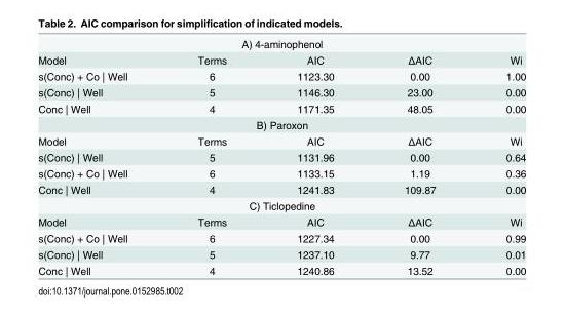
<table><tbody><tr><td colspan="5">A) 4-aminophenol</td></tr><tr><td>Model</td><td>Terms</td><td>AIC</td><td>ΔAIC</td><td>Wi</td></tr><tr><td>s(Conc) + Co | Well</td><td>6</td><td>1123.30</td><td>0.00</td><td>1.00</td></tr><tr><td>s(Conc) | Well</td><td>5</td><td>1146.30</td><td>23.00</td><td>0.00</td></tr><tr><td>Conc | Well</td><td>4</td><td>1171.35</td><td>48.05</td><td>0.00</td></tr><tr><td colspan="5">B) Paroxon</td></tr><tr><td>Model</td><td>Terms</td><td>AIC</td><td>ΔAIC</td><td>Wi</td></tr><tr><td>s(Conc) | Well</td><td>5</td><td>1131.96</td><td>0.00</td><td>0.64</td></tr><tr><td>s(Conc) + Co | Well</td><td>6</td><td>1133.15</td><td>1.19</td><td>0.36</td></tr><tr><td>Conc | Well</td><td>4</td><td>1241.83</td><td>109.87</td><td>0.00</td></tr><tr><td colspan="5">C) Ticlopedine</td></tr><tr><td>Model</td><td>Terms</td><td>AIC</td><td>ΔAIC</td><td>Wi</td></tr><tr><td>s(Conc) + Co | Well</td><td>6</td><td>1227.34</td><td>0.00</td><td>0.99</td></tr><tr><td>s(Conc) | Well</td><td>5</td><td>1237.10</td><td>9.77</td><td>0.01</td></tr><tr><td>Conc | Well</td><td>4</td><td>1240.86</td><td>13.52</td><td>0.00</td></tr></tbody></table>